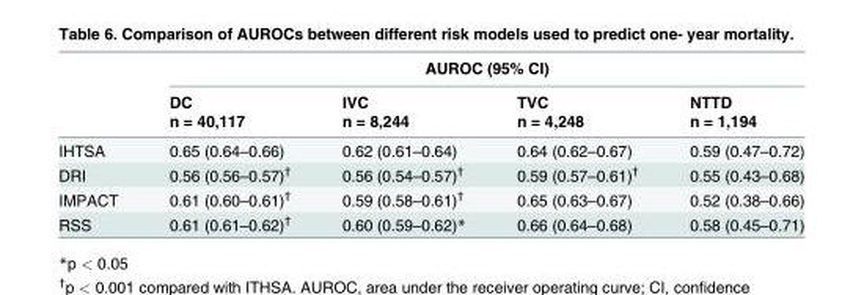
<table><thead><tr><td rowspan="3"></td><td colspan="4">AUROC (95% CI)</td></tr><tr><td rowspan="2">DC n = 40,117</td><td rowspan="2">IVC n = 8,244</td><td rowspan="2">TVC n = 4,248</td><td rowspan="2">NTTD n = 1,194</td></tr><tr></tr></thead><tbody><tr><td>IHTSA</td><td>0.65 (0.64–0.66)</td><td>0.62 (0.61–0.64)</td><td>0.64 (0.62–0.67)</td><td>0.59 (0.47–0.72)</td></tr><tr><td>DRI</td><td>0.56 (0.56–0.57)<sup>†</sup></td><td>0.56 (0.54–0.57)<sup>†</sup></td><td>0.59 (0.57–0.61)<sup>†</sup></td><td>0.55 (0.43–0.68)</td></tr><tr><td>IMPACT</td><td>0.61 (0.60–0.61)<sup>†</sup></td><td>0.59 (0.58–0.61)<sup>†</sup></td><td>0.65 (0.63–0.67)</td><td>0.52 (0.38–0.66)</td></tr><tr><td>RSS</td><td>0.61 (0.61–0.62)<sup>†</sup></td><td>0.60 (0.59–0.62)*</td><td>0.66 (0.64–0.68)</td><td>0.58 (0.45–0.71)</td></tr></tbody></table>